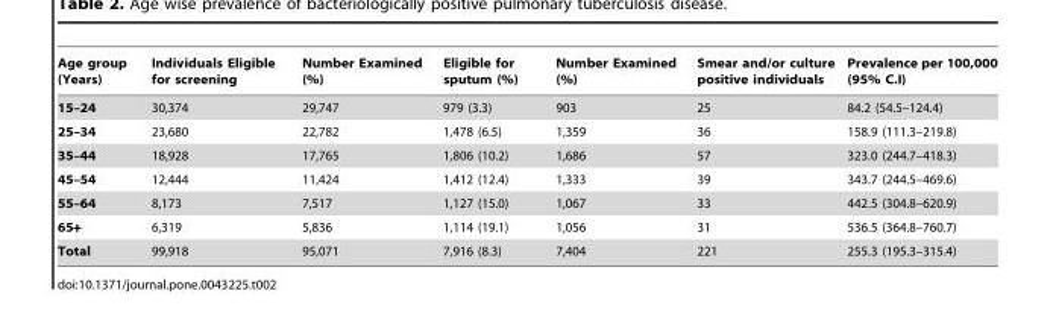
<table><thead><tr><td>Age group (Years)</td><td>Individuals Eligible for screening</td><td>Number Examined (%)</td><td>Eligible for sputum (%)</td><td>Number Examined (%)</td><td>Smear and/or culture positive individuals</td><td>Prevalence per 100,000 (95% C.I)</td></tr></thead><tbody><tr><td>15–24</td><td>30,374</td><td>29,747</td><td>979 (3.3)</td><td>903</td><td>25</td><td>84.2 (54.5–124.4)</td></tr><tr><td>25–34</td><td>23,680</td><td>22,782</td><td>1,478 (6.5)</td><td>1,359</td><td>36</td><td>158.9 (111.3–219.8)</td></tr><tr><td>35–44</td><td>18,928</td><td>17,765</td><td>1,806 (10.2)</td><td>1,686</td><td>57</td><td>323.0 (244.7–418.3)</td></tr><tr><td>45–54</td><td>12,444</td><td>11,424</td><td>1,412 (12.4)</td><td>1,333</td><td>39</td><td>343.7 (244.5–469.6)</td></tr><tr><td>55–64</td><td>8,173</td><td>7,517</td><td>1,127 (15.0)</td><td>1,067</td><td>33</td><td>442.5 (304.8–620.9)</td></tr><tr><td>65+</td><td>6,319</td><td>5,836</td><td>1,114 (19.1)</td><td>1,056</td><td>31</td><td>536.5 (364.8–760.7)</td></tr><tr><td>Total</td><td>99,918</td><td>95,071</td><td>7,916 (8.3)</td><td>7,404</td><td>221</td><td>255.3 (195.3–315.4)</td></tr></tbody></table>